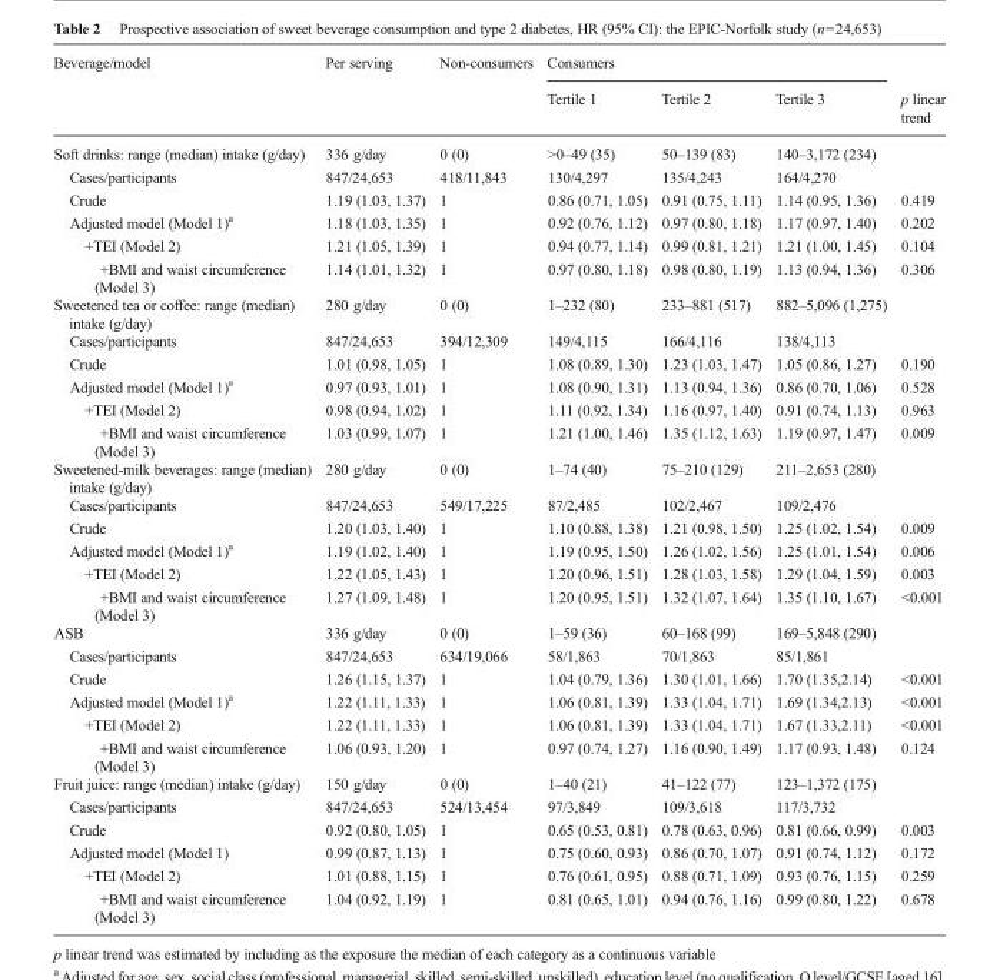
<table><thead><tr><td rowspan="2">Beverage/model</td><td rowspan="2">Per serving</td><td rowspan="2">Non-consumers</td><td colspan="3">Consumers</td><td rowspan="2">p linear trend</td></tr><tr><td>Tertile 1</td><td>Tertile 2</td><td>Tertile 3</td></tr></thead><tbody><tr><td>Soft drinks: range (median) intake (g/day)</td><td>336 g/day</td><td>0 (0)</td><td>&gt;0–49 (35)</td><td>50–139 (83)</td><td>140–3,172 (234)</td><td></td></tr><tr><td>Cases/participants</td><td>847/24,653</td><td>418/11,843</td><td>130/4,297</td><td>135/4,243</td><td>164/4,270</td><td></td></tr><tr><td>Crude</td><td>1.19 (1.03, 1.37)</td><td>1</td><td>0.86 (0.71, 1.05)</td><td>0.91 (0.75, 1.11)</td><td>1.14 (0.95, 1.36)</td><td>0.419</td></tr><tr><td>Adjusted model (Model 1)<sup>a</sup></td><td>1.18 (1.03, 1.35)</td><td>1</td><td>0.92 (0.76, 1.12)</td><td>0.97 (0.80, 1.18)</td><td>1.17 (0.97, 1.40)</td><td>0.202</td></tr><tr><td>+TEI (Model 2)</td><td>1.21 (1.05, 1.39)</td><td>1</td><td>0.94 (0.77, 1.14)</td><td>0.99 (0.81, 1.21)</td><td>1.21 (1.00, 1.45)</td><td>0.104</td></tr><tr><td>+BMI and waist circumference (Model 3)</td><td>1.14 (1.01, 1.32)</td><td>1</td><td>0.97 (0.80, 1.18)</td><td>0.98 (0.80, 1.19)</td><td>1.13 (0.94, 1.36)</td><td>0.306</td></tr><tr><td>Sweetened tea or coffee: range (median) intake (g/day)</td><td>280 g/day</td><td>0 (0)</td><td>1–232 (80)</td><td>233–881 (517)</td><td>882–5,096 (1,275)</td><td></td></tr><tr><td>Cases/participants</td><td>847/24,653</td><td>394/12,309</td><td>149/4,115</td><td>166/4,116</td><td>138/4,113</td><td></td></tr><tr><td>Crude</td><td>1.01 (0.98, 1.05)</td><td>1</td><td>1.08 (0.89, 1.30)</td><td>1.23 (1.03, 1.47)</td><td>1.05 (0.86, 1.27)</td><td>0.190</td></tr><tr><td>Adjusted model (Model 1)<sup>a</sup></td><td>0.97 (0.93, 1.01)</td><td>1</td><td>1.08 (0.90, 1.31)</td><td>1.13 (0.94, 1.36)</td><td>0.86 (0.70, 1.06)</td><td>0.528</td></tr><tr><td>+TEI (Model 2)</td><td>0.98 (0.94, 1.02)</td><td>1</td><td>1.11 (0.92, 1.34)</td><td>1.16 (0.97, 1.40)</td><td>0.91 (0.74, 1.13)</td><td>0.963</td></tr><tr><td>+BMI and waist circumference (Model 3)</td><td>1.03 (0.99, 1.07)</td><td>1</td><td>1.21 (1.00, 1.46)</td><td>1.35 (1.12, 1.63)</td><td>1.19 (0.97, 1.47)</td><td>0.009</td></tr><tr><td>Sweetened-milk beverages: range (median) intake (g/day)</td><td>280 g/day</td><td>0 (0)</td><td>1–74 (40)</td><td>75–210 (129)</td><td>211–2,653 (280)</td><td></td></tr><tr><td>Cases/participants</td><td>847/24,653</td><td>549/17,225</td><td>87/2,485</td><td>102/2,467</td><td>109/2,476</td><td></td></tr><tr><td>Crude</td><td>1.20 (1.03, 1.40)</td><td>1</td><td>1.10 (0.88, 1.38)</td><td>1.21 (0.98, 1.50)</td><td>1.25 (1.02, 1.54)</td><td>0.009</td></tr><tr><td>Adjusted model (Model 1)<sup>a</sup></td><td>1.19 (1.02, 1.40)</td><td>1</td><td>1.19 (0.95, 1.50)</td><td>1.26 (1.02, 1.56)</td><td>1.25 (1.01, 1.54)</td><td>0.006</td></tr><tr><td>+TEI (Model 2)</td><td>1.22 (1.05, 1.43)</td><td>1</td><td>1.20 (0.96, 1.51)</td><td>1.28 (1.03, 1.58)</td><td>1.29 (1.04, 1.59)</td><td>0.003</td></tr><tr><td>+BMI and waist circumference (Model 3)</td><td>1.27 (1.09, 1.48)</td><td>1</td><td>1.20 (0.95, 1.51)</td><td>1.32 (1.07, 1.64)</td><td>1.35 (1.10, 1.67)</td><td>&lt;0.001</td></tr><tr><td>ASB</td><td>336 g/day</td><td>0 (0)</td><td>1–59 (36)</td><td>60–168 (99)</td><td>169–5,848 (290)</td><td></td></tr><tr><td>Cases/participants</td><td>847/24,653</td><td>634/19,066</td><td>58/1,863</td><td>70/1,863</td><td>85/1,861</td><td></td></tr><tr><td>Crude</td><td>1.26 (1.15, 1.37)</td><td>1</td><td>1.04 (0.79, 1.36)</td><td>1.30 (1.01, 1.66)</td><td>1.70 (1.35,2.14)</td><td>&lt;0.001</td></tr><tr><td>Adjusted model (Model 1)<sup>a</sup></td><td>1.22 (1.11, 1.33)</td><td>1</td><td>1.06 (0.81, 1.39)</td><td>1.33 (1.04, 1.71)</td><td>1.69 (1.34,2.13)</td><td>&lt;0.001</td></tr><tr><td>+TEI (Model 2)</td><td>1.22 (1.11, 1.33)</td><td>1</td><td>1.06 (0.81, 1.39)</td><td>1.33 (1.04, 1.71)</td><td>1.67 (1.33,2.11)</td><td>&lt;0.001</td></tr><tr><td>+BMI and waist circumference (Model 3)</td><td>1.06 (0.93, 1.20)</td><td>1</td><td>0.97 (0.74, 1.27)</td><td>1.16 (0.90, 1.49)</td><td>1.17 (0.93, 1.48)</td><td>0.124</td></tr><tr><td>Fruit juice: range (median) intake (g/day)</td><td>150 g/day</td><td>0 (0)</td><td>1–40 (21)</td><td>41–122 (77)</td><td>123–1,372 (175)</td><td></td></tr><tr><td>Cases/participants</td><td>847/24,653</td><td>524/13,454</td><td>97/3,849</td><td>109/3,618</td><td>117/3,732</td><td></td></tr><tr><td>Crude</td><td>0.92 (0.80, 1.05)</td><td>1</td><td>0.65 (0.53, 0.81)</td><td>0.78 (0.63, 0.96)</td><td>0.81 (0.66, 0.99)</td><td>0.003</td></tr><tr><td>Adjusted model (Model 1)</td><td>0.99 (0.87, 1.13)</td><td>1</td><td>0.75 (0.60, 0.93)</td><td>0.86 (0.70, 1.07)</td><td>0.91 (0.74, 1.12)</td><td>0.172</td></tr><tr><td>+TEI (Model 2)</td><td>1.01 (0.88, 1.15)</td><td>1</td><td>0.76 (0.61, 0.95)</td><td>0.88 (0.71, 1.09)</td><td>0.93 (0.76, 1.15)</td><td>0.259</td></tr><tr><td>+BMI and waist circumference (Model 3)</td><td>1.04 (0.92, 1.19)</td><td>1</td><td>0.81 (0.65, 1.01)</td><td>0.94 (0.76, 1.16)</td><td>0.99 (0.80, 1.22)</td><td>0.678</td></tr></tbody></table>